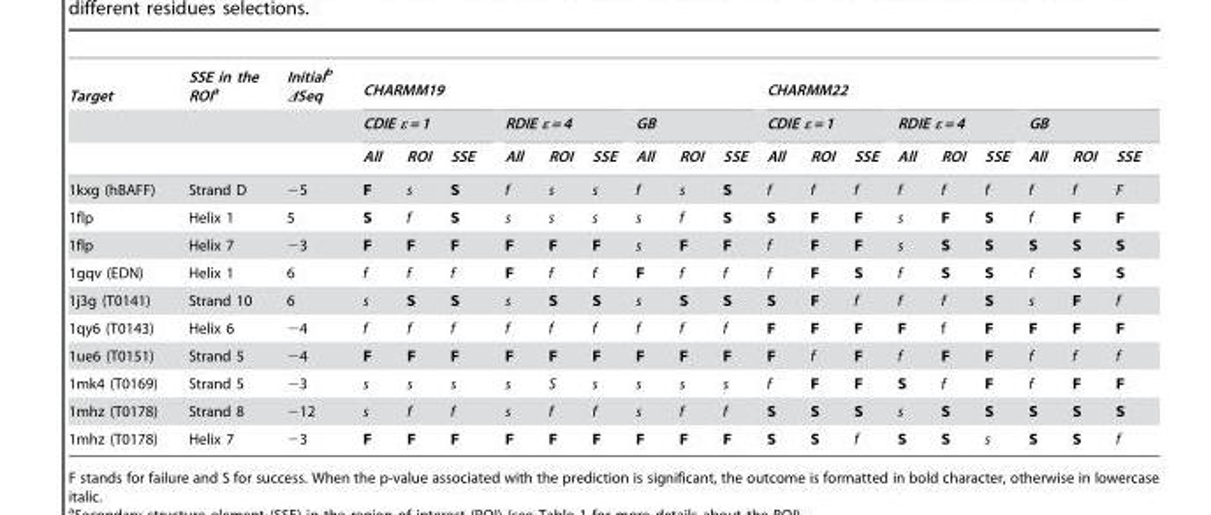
<table><thead><tr><td rowspan="3">Target</td><td rowspan="3">SSE in the ROIa</td><td rowspan="3">Initialb ΔSeq</td><td colspan="9">CHARMM19</td><td colspan="9">CHARMM22</td></tr><tr><td colspan="3">CDIE ε = 1</td><td colspan="3">RDIE ε = 4</td><td colspan="3">GB</td><td colspan="3">CDIE ε = 1</td><td colspan="3">RDIE ε = 4</td><td colspan="3">GB</td></tr><tr><td>All</td><td>ROI</td><td>SSE</td><td>All</td><td>ROI</td><td>SSE</td><td>All</td><td>ROI</td><td>SSE</td><td>All</td><td>ROI</td><td>SSE</td><td>All</td><td>ROI</td><td>SSE</td><td>All</td><td>ROI</td><td>SSE</td></tr></thead><tbody><tr><td>1kxg (hBAFF)</td><td>Strand D</td><td>−5</td><td>F</td><td>s</td><td>S</td><td>f</td><td>s</td><td>s</td><td>f</td><td>s</td><td>S</td><td>f</td><td>f</td><td>f</td><td>f</td><td>f</td><td>f</td><td>f</td><td>f</td><td>F</td></tr><tr><td>1flp</td><td>Helix 1</td><td>5</td><td>S</td><td>f</td><td>S</td><td>s</td><td>s</td><td>s</td><td>s</td><td>f</td><td>S</td><td>S</td><td>F</td><td>F</td><td>s</td><td>F</td><td>S</td><td>f</td><td>F</td><td>F</td></tr><tr><td>1flp</td><td>Helix 7</td><td>−3</td><td>F</td><td>F</td><td>F</td><td>F</td><td>F</td><td>F</td><td>s</td><td>F</td><td>F</td><td>f</td><td>F</td><td>F</td><td>s</td><td>S</td><td>S</td><td>S</td><td>S</td><td>S</td></tr><tr><td>1gqv (EDN)</td><td>Helix 1</td><td>6</td><td>f</td><td>f</td><td>f</td><td>F</td><td>f</td><td>f</td><td>F</td><td>f</td><td>f</td><td>f</td><td>F</td><td>S</td><td>f</td><td>S</td><td>S</td><td>f</td><td>S</td><td>S</td></tr><tr><td>1j3g (T0141)</td><td>Strand 10</td><td>6</td><td>s</td><td>S</td><td>S</td><td>s</td><td>S</td><td>S</td><td>s</td><td>S</td><td>S</td><td>S</td><td>F</td><td>f</td><td>f</td><td>f</td><td>S</td><td>s</td><td>F</td><td>f</td></tr><tr><td>1qy6 (T0143)</td><td>Helix 6</td><td>−4</td><td>f</td><td>f</td><td>f</td><td>f</td><td>f</td><td>f</td><td>f</td><td>f</td><td>f</td><td>F</td><td>F</td><td>F</td><td>F</td><td>f</td><td>F</td><td>F</td><td>F</td><td>F</td></tr><tr><td>1ue6 (T0151)</td><td>Strand 5</td><td>−4</td><td>F</td><td>F</td><td>F</td><td>F</td><td>F</td><td>F</td><td>F</td><td>F</td><td>F</td><td>F</td><td>f</td><td>F</td><td>f</td><td>F</td><td>F</td><td>f</td><td>f</td><td>f</td></tr><tr><td>1mk4 (T0169)</td><td>Strand 5</td><td>−3</td><td>s</td><td>s</td><td>s</td><td>s</td><td>S</td><td>s</td><td>s</td><td>s</td><td>s</td><td>f</td><td>F</td><td>F</td><td>S</td><td>f</td><td>F</td><td>f</td><td>F</td><td>F</td></tr><tr><td>1mhz (T0178)</td><td>Strand 8</td><td>−12</td><td>s</td><td>f</td><td>f</td><td>s</td><td>f</td><td>f</td><td>s</td><td>f</td><td>f</td><td>S</td><td>S</td><td>S</td><td>s</td><td>S</td><td>S</td><td>S</td><td>S</td><td>S</td></tr><tr><td>1mhz (T0178)</td><td>Helix 7</td><td>−3</td><td>F</td><td>F</td><td>F</td><td>F</td><td>F</td><td>F</td><td>F</td><td>F</td><td>F</td><td>S</td><td>S</td><td>f</td><td>S</td><td>S</td><td>s</td><td>S</td><td>S</td><td>f</td></tr></tbody></table>